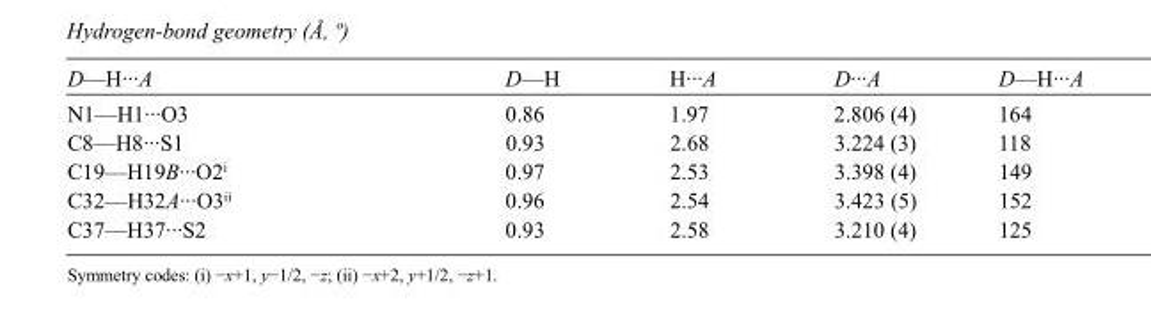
<table><tbody><tr><td>D—H···A</td><td>D—H</td><td>H···A</td><td>D···A</td><td>D—H···A</td></tr><tr><td>N1—H1···O3</td><td>0.86</td><td>1.97</td><td>2.806 (4)</td><td>164</td></tr><tr><td>C8—H8···S1</td><td>0.93</td><td>2.68</td><td>3.224 (3)</td><td>118</td></tr><tr><td>C19—H19B···O2<sup>i</sup></td><td>0.97</td><td>2.53</td><td>3.398 (4)</td><td>149</td></tr><tr><td>C32—H32A···O3<sup>ii</sup></td><td>0.96</td><td>2.54</td><td>3.423 (5)</td><td>152</td></tr><tr><td>C37—H37···S2</td><td>0.93</td><td>2.58</td><td>3.210 (4)</td><td>125</td></tr></tbody></table>